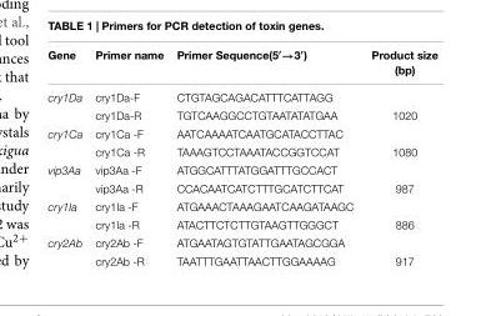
<table><thead><tr><td>Gene</td><td>Primer name</td><td>Primer Sequence(5′→3′)</td><td>Product size (bp)</td></tr></thead><tbody><tr><td>cry1Da</td><td>cry1Da-F</td><td>CTGTAGCAGACATTTCATTAGG</td><td></td></tr><tr><td></td><td>cry1Da-R</td><td>TGTCAAGGCCTGTAATATATGAA</td><td>1020</td></tr><tr><td>cry1Ca</td><td>cry1Ca -F</td><td>AATCAAAATCAATGCATACCTTAC</td><td></td></tr><tr><td></td><td>cry1Ca -R</td><td>TAAAGTCCTAAATACCGGTCCAT</td><td>1080</td></tr><tr><td>vip3Aa</td><td>vip3Aa -F</td><td>ATGGCATTTATGGATTTGCCACT</td><td></td></tr><tr><td></td><td>vip3Aa -R</td><td>CCACAATCATCTTTGCATCTTCAT</td><td>987</td></tr><tr><td>cry1Ia</td><td>cry1Ia -F</td><td>ATGAAACTAAAGAATCAAGATAAGC</td><td></td></tr><tr><td></td><td>cry1Ia -R</td><td>ATACTTCTCTTGTAAGTTGGGCT</td><td>886</td></tr><tr><td>cry2Ab</td><td>cry2Ab -F</td><td>ATGAATAGTGTATTGAATAGCGGA</td><td></td></tr><tr><td></td><td>cry2Ab -R</td><td>TAATTTGAATTAACTTGGAAAAG</td><td>917</td></tr></tbody></table>